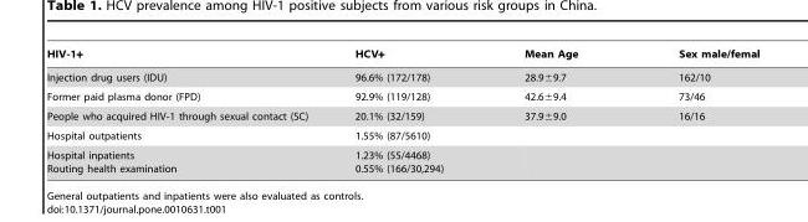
<table><thead><tr><td>HIV-1+</td><td>HCV+</td><td>Mean Age</td><td>Sex male/femal</td></tr></thead><tbody><tr><td>Injection drug users (IDU)</td><td>96.6% (172/178)</td><td>28.9±9.7</td><td>162/10</td></tr><tr><td>Former paid plasma donor (FPD)</td><td>92.9% (119/128)</td><td>42.6±9.4</td><td>73/46</td></tr><tr><td>People who acquired HIV-1 through sexual contact (SC)</td><td>20.1% (32/159)</td><td>37.9±9.0</td><td>16/16</td></tr><tr><td>Hospital outpatients</td><td>1.55% (87/5610)</td><td></td><td></td></tr><tr><td>Hospital inpatients Routing health examination</td><td>1.23% (55/4468) 0.55% (166/30,294)</td><td></td><td></td></tr></tbody></table>